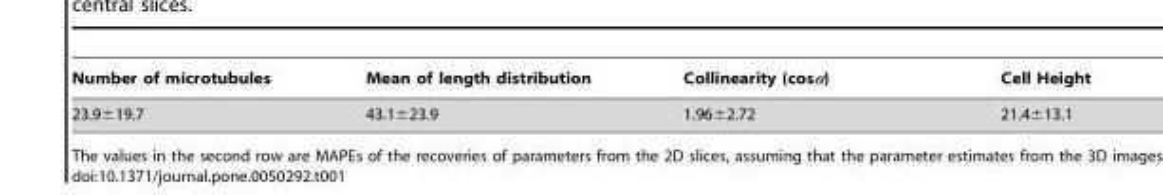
<table><thead><tr><td>Number of microtubules</td><td>Mean of length distribution</td><td>Collinearity (cosα)</td><td>Cell Height</td></tr></thead><tbody><tr><td>23.9±19.7</td><td>43.1±23.9</td><td>1.96±2.72</td><td>21.4±13.1</td></tr></tbody></table>